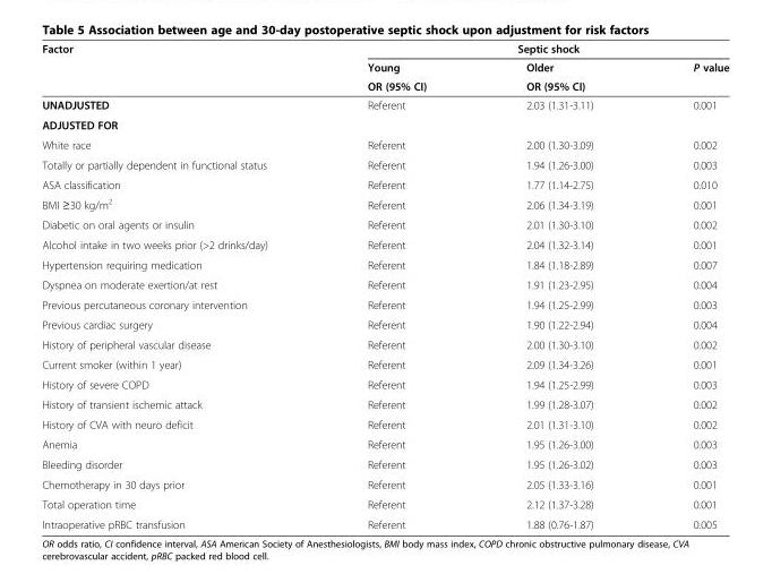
<table><thead><tr><td rowspan="3">Factor</td><td colspan="3">Septic shock</td></tr><tr><td rowspan="2">Young OR (95% CI)</td><td rowspan="2">Older OR (95% CI)</td><td rowspan="2">P value</td></tr><tr></tr></thead><tbody><tr><td>UNADJUSTED</td><td>Referent</td><td>2.03 (1.31-3.11)</td><td>0.001</td></tr><tr><td colspan="4">ADJUSTED FOR</td></tr><tr><td>White race</td><td>Referent</td><td>2.00 (1.30-3.09)</td><td>0.002</td></tr><tr><td>Totally or partially dependent in functional status</td><td>Referent</td><td>1.94 (1.26-3.00)</td><td>0.003</td></tr><tr><td>ASA classification</td><td>Referent</td><td>1.77 (1.14-2.75)</td><td>0.010</td></tr><tr><td>BMI ≥30 kg/m<sup>2</sup></td><td>Referent</td><td>2.06 (1.34-3.19)</td><td>0.001</td></tr><tr><td>Diabetic on oral agents or insulin</td><td>Referent</td><td>2.01 (1.30-3.10)</td><td>0.002</td></tr><tr><td>Alcohol intake in two weeks prior (&gt;2 drinks/day)</td><td>Referent</td><td>2.04 (1.32-3.14)</td><td>0.001</td></tr><tr><td>Hypertension requiring medication</td><td>Referent</td><td>1.84 (1.18-2.89)</td><td>0.007</td></tr><tr><td>Dyspnea on moderate exertion/at rest</td><td>Referent</td><td>1.91 (1.23-2.95)</td><td>0.004</td></tr><tr><td>Previous percutaneous coronary intervention</td><td>Referent</td><td>1.94 (1.25-2.99)</td><td>0.003</td></tr><tr><td>Previous cardiac surgery</td><td>Referent</td><td>1.90 (1.22-2.94)</td><td>0.004</td></tr><tr><td>History of peripheral vascular disease</td><td>Referent</td><td>2.00 (1.30-3.10)</td><td>0.002</td></tr><tr><td>Current smoker (within 1 year)</td><td>Referent</td><td>2.09 (1.34-3.26)</td><td>0.001</td></tr><tr><td>History of severe COPD</td><td>Referent</td><td>1.94 (1.25-2.99)</td><td>0.003</td></tr><tr><td>History of transient ischemic attack</td><td>Referent</td><td>1.99 (1.28-3.07)</td><td>0.002</td></tr><tr><td>History of CVA with neuro deficit</td><td>Referent</td><td>2.01 (1.31-3.10)</td><td>0.002</td></tr><tr><td>Anemia</td><td>Referent</td><td>1.95 (1.26-3.00)</td><td>0.003</td></tr><tr><td>Bleeding disorder</td><td>Referent</td><td>1.95 (1.26-3.02)</td><td>0.003</td></tr><tr><td>Chemotherapy in 30 days prior</td><td>Referent</td><td>2.05 (1.33-3.16)</td><td>0.001</td></tr><tr><td>Total operation time</td><td>Referent</td><td>2.12 (1.37-3.28)</td><td>0.001</td></tr><tr><td>Intraoperative pRBC transfusion</td><td>Referent</td><td>1.88 (0.76-1.87)</td><td>0.005</td></tr></tbody></table>